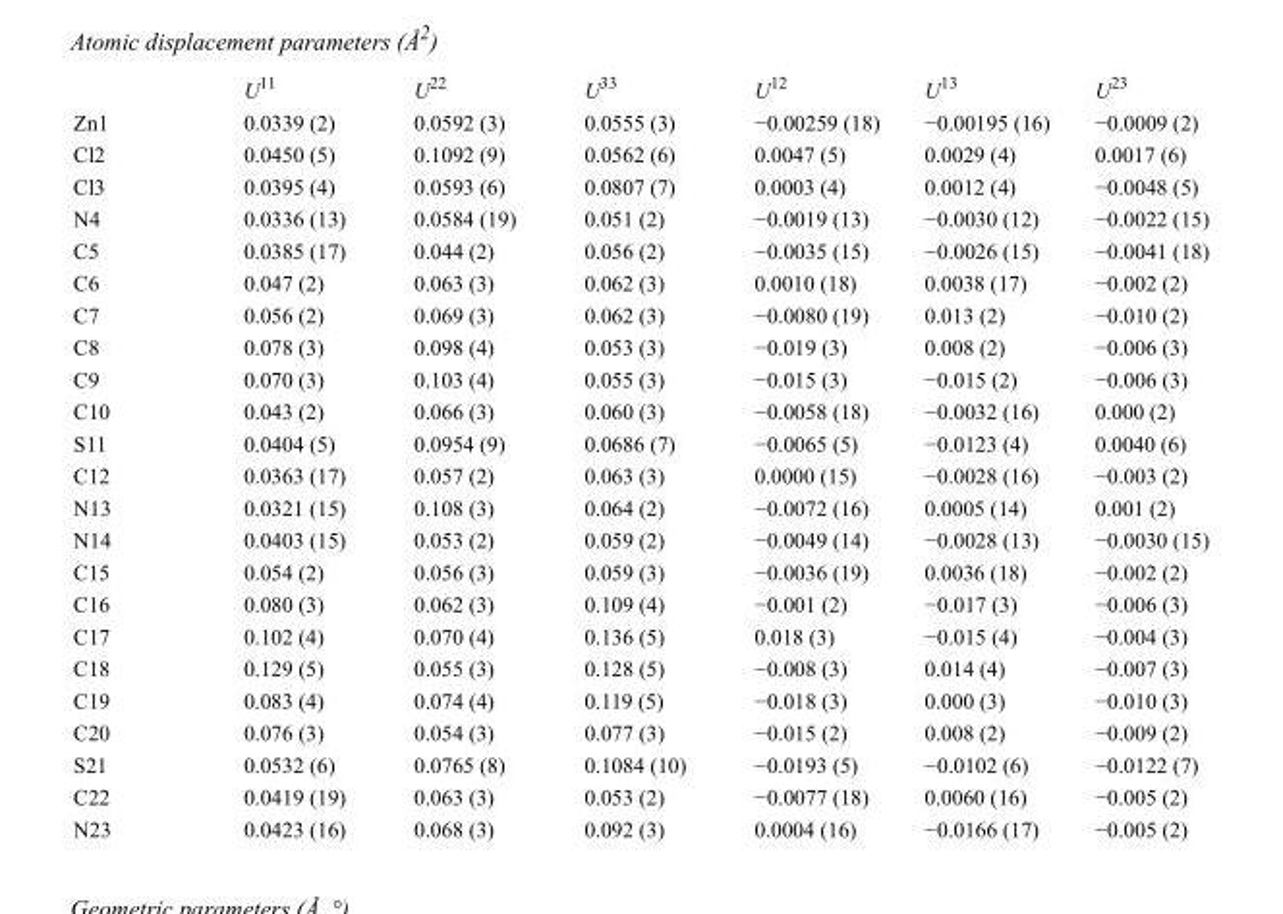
<table><thead><tr><td></td><td>U<sup>11</sup></td><td>U<sup>22</sup></td><td>U<sup>33</sup></td><td>U<sup>12</sup></td><td>U<sup>13</sup></td><td>U<sup>23</sup></td></tr></thead><tbody><tr><td>Zn1</td><td>0.0339 (2)</td><td>0.0592 (3)</td><td>0.0555 (3)</td><td>−0.00259 (18)</td><td>−0.00195 (16)</td><td>−0.0009 (2)</td></tr><tr><td>Cl2</td><td>0.0450 (5)</td><td>0.1092 (9)</td><td>0.0562 (6)</td><td>0.0047 (5)</td><td>0.0029 (4)</td><td>0.0017 (6)</td></tr><tr><td>Cl3</td><td>0.0395 (4)</td><td>0.0593 (6)</td><td>0.0807 (7)</td><td>0.0003 (4)</td><td>0.0012 (4)</td><td>−0.0048 (5)</td></tr><tr><td>N4</td><td>0.0336 (13)</td><td>0.0584 (19)</td><td>0.051 (2)</td><td>−0.0019 (13)</td><td>−0.0030 (12)</td><td>−0.0022 (15)</td></tr><tr><td>C5</td><td>0.0385 (17)</td><td>0.044 (2)</td><td>0.056 (2)</td><td>−0.0035 (15)</td><td>−0.0026 (15)</td><td>−0.0041 (18)</td></tr><tr><td>C6</td><td>0.047 (2)</td><td>0.063 (3)</td><td>0.062 (3)</td><td>0.0010 (18)</td><td>0.0038 (17)</td><td>−0.002 (2)</td></tr><tr><td>C7</td><td>0.056 (2)</td><td>0.069 (3)</td><td>0.062 (3)</td><td>−0.0080 (19)</td><td>0.013 (2)</td><td>−0.010 (2)</td></tr><tr><td>C8</td><td>0.078 (3)</td><td>0.098 (4)</td><td>0.053 (3)</td><td>−0.019 (3)</td><td>0.008 (2)</td><td>−0.006 (3)</td></tr><tr><td>C9</td><td>0.070 (3)</td><td>0.103 (4)</td><td>0.055 (3)</td><td>−0.015 (3)</td><td>−0.015 (2)</td><td>−0.006 (3)</td></tr><tr><td>C10</td><td>0.043 (2)</td><td>0.066 (3)</td><td>0.060 (3)</td><td>−0.0058 (18)</td><td>−0.0032 (16)</td><td>0.000 (2)</td></tr><tr><td>S11</td><td>0.0404 (5)</td><td>0.0954 (9)</td><td>0.0686 (7)</td><td>−0.0065 (5)</td><td>−0.0123 (4)</td><td>0.0040 (6)</td></tr><tr><td>C12</td><td>0.0363 (17)</td><td>0.057 (2)</td><td>0.063 (3)</td><td>0.0000 (15)</td><td>−0.0028 (16)</td><td>−0.003 (2)</td></tr><tr><td>N13</td><td>0.0321 (15)</td><td>0.108 (3)</td><td>0.064 (2)</td><td>−0.0072 (16)</td><td>0.0005 (14)</td><td>0.001 (2)</td></tr><tr><td>N14</td><td>0.0403 (15)</td><td>0.053 (2)</td><td>0.059 (2)</td><td>−0.0049 (14)</td><td>−0.0028 (13)</td><td>−0.0030 (15)</td></tr><tr><td>C15</td><td>0.054 (2)</td><td>0.056 (3)</td><td>0.059 (3)</td><td>−0.0036 (19)</td><td>0.0036 (18)</td><td>−0.002 (2)</td></tr><tr><td>C16</td><td>0.080 (3)</td><td>0.062 (3)</td><td>0.109 (4)</td><td>−0.001 (2)</td><td>−0.017 (3)</td><td>−0.006 (3)</td></tr><tr><td>C17</td><td>0.102 (4)</td><td>0.070 (4)</td><td>0.136 (5)</td><td>0.018 (3)</td><td>−0.015 (4)</td><td>−0.004 (3)</td></tr><tr><td>C18</td><td>0.129 (5)</td><td>0.055 (3)</td><td>0.128 (5)</td><td>−0.008 (3)</td><td>0.014 (4)</td><td>−0.007 (3)</td></tr><tr><td>C19</td><td>0.083 (4)</td><td>0.074 (4)</td><td>0.119 (5)</td><td>−0.018 (3)</td><td>0.000 (3)</td><td>−0.010 (3)</td></tr><tr><td>C20</td><td>0.076 (3)</td><td>0.054 (3)</td><td>0.077 (3)</td><td>−0.015 (2)</td><td>0.008 (2)</td><td>−0.009 (2)</td></tr><tr><td>S21</td><td>0.0532 (6)</td><td>0.0765 (8)</td><td>0.1084 (10)</td><td>−0.0193 (5)</td><td>−0.0102 (6)</td><td>−0.0122 (7)</td></tr><tr><td>C22</td><td>0.0419 (19)</td><td>0.063 (3)</td><td>0.053 (2)</td><td>−0.0077 (18)</td><td>0.0060 (16)</td><td>−0.005 (2)</td></tr><tr><td>N23</td><td>0.0423 (16)</td><td>0.068 (3)</td><td>0.092 (3)</td><td>0.0004 (16)</td><td>−0.0166 (17)</td><td>−0.005 (2)</td></tr></tbody></table>